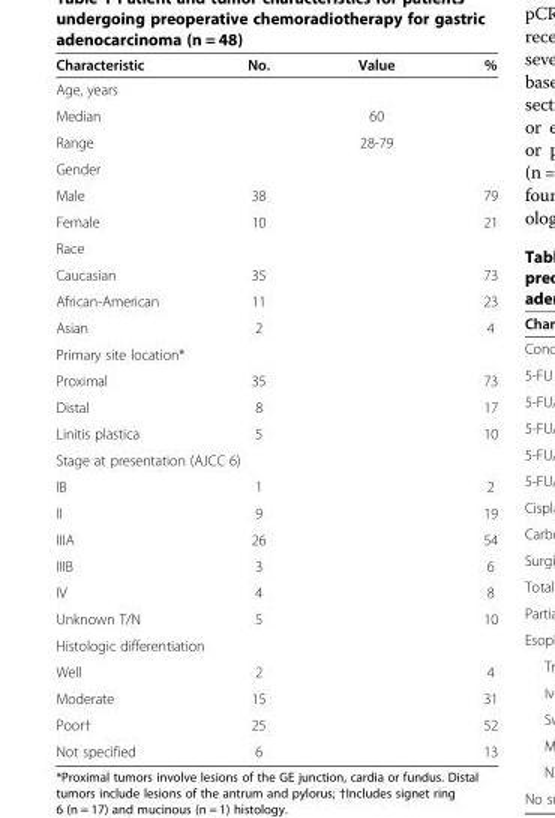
<table><thead><tr><td>Characteristic</td><td>No.</td><td>Value</td><td>%</td></tr></thead><tbody><tr><td colspan="4">Age, years</td></tr><tr><td>Median</td><td rowspan="2"></td><td>60</td><td rowspan="2"></td></tr><tr><td>Range</td><td>28-79</td></tr><tr><td colspan="4">Gender</td></tr><tr><td>Male</td><td>38</td><td rowspan="2"></td><td>79</td></tr><tr><td>Female</td><td>10</td><td>21</td></tr><tr><td colspan="4">Race</td></tr><tr><td>Caucasian</td><td>35</td><td rowspan="3"></td><td>73</td></tr><tr><td>African-American</td><td>11</td><td>23</td></tr><tr><td>Asian</td><td>2</td><td>4</td></tr><tr><td colspan="4">Primary site location*</td></tr><tr><td>Proximal</td><td>35</td><td rowspan="3"></td><td>73</td></tr><tr><td>Distal</td><td>8</td><td>17</td></tr><tr><td>Linitis plastica</td><td>5</td><td>10</td></tr><tr><td colspan="4">Stage at presentation (AJCC 6)</td></tr><tr><td>IB</td><td>1</td><td rowspan="6"></td><td>2</td></tr><tr><td>II</td><td>9</td><td>19</td></tr><tr><td>IIIA</td><td>26</td><td>54</td></tr><tr><td>IIIB</td><td>3</td><td>6</td></tr><tr><td>IV</td><td>4</td><td>8</td></tr><tr><td>Unknown T/N</td><td>5</td><td>10</td></tr><tr><td colspan="4">Histologic differentiation</td></tr><tr><td>Well</td><td>2</td><td rowspan="3"></td><td>4</td></tr><tr><td>Moderate</td><td>15</td><td>31</td></tr><tr><td>Poor†</td><td>25</td><td>52</td></tr><tr><td>Not specified</td><td>6</td><td></td><td>13</td></tr></tbody></table>